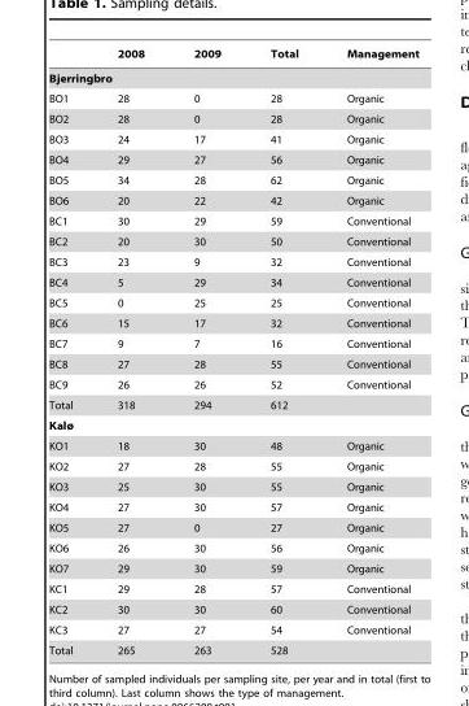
<table><thead><tr><td></td><td>2008</td><td>2009</td><td>Total</td><td>Management</td></tr></thead><tbody><tr><td colspan="5">Bjerringbro</td></tr><tr><td>BO1</td><td>28</td><td>0</td><td>28</td><td>Organic</td></tr><tr><td>BO2</td><td>28</td><td>0</td><td>28</td><td>Organic</td></tr><tr><td>BO3</td><td>24</td><td>17</td><td>41</td><td>Organic</td></tr><tr><td>BO4</td><td>29</td><td>27</td><td>56</td><td>Organic</td></tr><tr><td>BO5</td><td>34</td><td>28</td><td>62</td><td>Organic</td></tr><tr><td>BO6</td><td>20</td><td>22</td><td>42</td><td>Organic</td></tr><tr><td>BC1</td><td>30</td><td>29</td><td>59</td><td>Conventional</td></tr><tr><td>BC2</td><td>20</td><td>30</td><td>50</td><td>Conventional</td></tr><tr><td>BC3</td><td>23</td><td>9</td><td>32</td><td>Conventional</td></tr><tr><td>BC4</td><td>5</td><td>29</td><td>34</td><td>Conventional</td></tr><tr><td>BC5</td><td>0</td><td>25</td><td>25</td><td>Conventional</td></tr><tr><td>BC6</td><td>15</td><td>17</td><td>32</td><td>Conventional</td></tr><tr><td>BC7</td><td>9</td><td>7</td><td>16</td><td>Conventional</td></tr><tr><td>BC8</td><td>27</td><td>28</td><td>55</td><td>Conventional</td></tr><tr><td>BC9</td><td>26</td><td>26</td><td>52</td><td>Conventional</td></tr><tr><td>Total</td><td>318</td><td>294</td><td>612</td><td></td></tr><tr><td colspan="5">Kalø</td></tr><tr><td>KO1</td><td>18</td><td>30</td><td>48</td><td>Organic</td></tr><tr><td>KO2</td><td>27</td><td>28</td><td>55</td><td>Organic</td></tr><tr><td>KO3</td><td>25</td><td>30</td><td>55</td><td>Organic</td></tr><tr><td>KO4</td><td>27</td><td>30</td><td>57</td><td>Organic</td></tr><tr><td>KO5</td><td>27</td><td>0</td><td>27</td><td>Organic</td></tr><tr><td>KO6</td><td>26</td><td>30</td><td>56</td><td>Organic</td></tr><tr><td>KO7</td><td>29</td><td>30</td><td>59</td><td>Organic</td></tr><tr><td>KC1</td><td>29</td><td>28</td><td>57</td><td>Conventional</td></tr><tr><td>KC2</td><td>30</td><td>30</td><td>60</td><td>Conventional</td></tr><tr><td>KC3</td><td>27</td><td>27</td><td>54</td><td>Conventional</td></tr><tr><td>Total</td><td>265</td><td>263</td><td>528</td><td></td></tr></tbody></table>